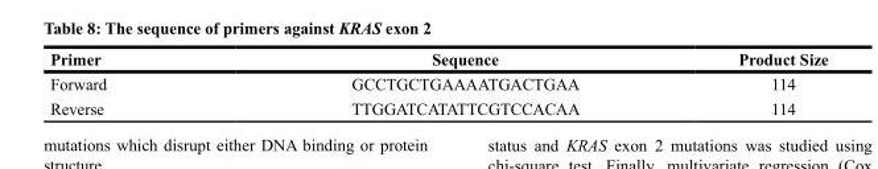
<table><thead><tr><td>Primer</td><td>Sequence</td><td>Product Size</td></tr></thead><tbody><tr><td>Forward</td><td>GCCTGCTGAAAATGACTGAA</td><td>114</td></tr><tr><td>Reverse</td><td>TTGGATCATATTCGTCCACAA</td><td>114</td></tr></tbody></table>